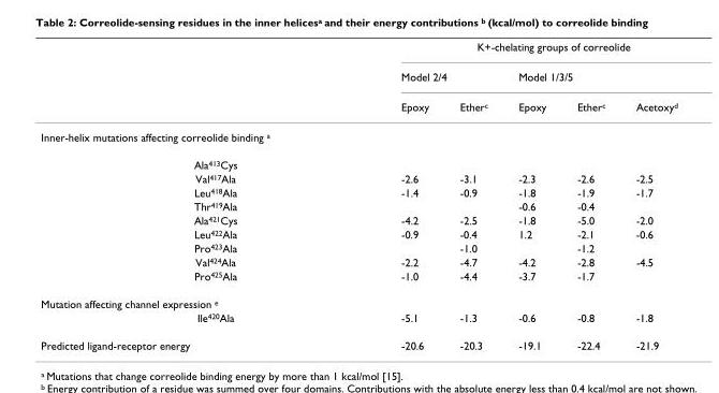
<table><thead><tr><td rowspan="3"></td><td colspan="5">K+-chelating groups of correolide</td></tr><tr><td colspan="2">Model 2/4</td><td colspan="2">Model 1/3/5</td><td rowspan="2">Acetoxy<sup>d</sup></td></tr><tr><td>Epoxy</td><td>Ether<sup>c</sup></td><td>Epoxy</td><td>Ether<sup>c</sup></td></tr></thead><tbody><tr><td colspan="6">Inner-helix mutations affecting correolide binding <sup>a</sup></td></tr><tr><td colspan="6">Ala<sup>413</sup>Cys</td></tr><tr><td>Val<sup>417</sup>Ala</td><td>-2.6</td><td>-3.1</td><td>-2.3</td><td>-2.6</td><td>-2.5</td></tr><tr><td>Leu<sup>418</sup>Ala</td><td>-1.4</td><td>-0.9</td><td>-1.8</td><td>-1.9</td><td>-1.7</td></tr><tr><td>Thr<sup>419</sup>Ala</td><td></td><td></td><td>-0.6</td><td>-0.4</td><td></td></tr><tr><td>Ala<sup>421</sup>Cys</td><td>-4.2</td><td>-2.5</td><td>-1.8</td><td>-5.0</td><td>-2.0</td></tr><tr><td>Leu<sup>422</sup>Ala</td><td>-0.9</td><td>-0.4</td><td>1.2</td><td>-2.1</td><td>-0.6</td></tr><tr><td>Pro<sup>423</sup>Ala</td><td></td><td>-1.0</td><td></td><td>-1.2</td><td></td></tr><tr><td>Val<sup>424</sup>Ala</td><td>-2.2</td><td>-4.7</td><td>-4.2</td><td>-2.8</td><td>-4.5</td></tr><tr><td>Pro<sup>425</sup>Ala</td><td>-1.0</td><td>-4.4</td><td>-3.7</td><td>-1.7</td><td></td></tr><tr><td colspan="6">Mutation affecting channel expression <sup>e</sup></td></tr><tr><td>Ile<sup>420</sup>Ala</td><td>-5.1</td><td>-1.3</td><td>-0.6</td><td>-0.8</td><td>-1.8</td></tr><tr><td>Predicted ligand-receptor energy</td><td>-20.6</td><td>-20.3</td><td>-19.1</td><td>-22.4</td><td>-21.9</td></tr></tbody></table>